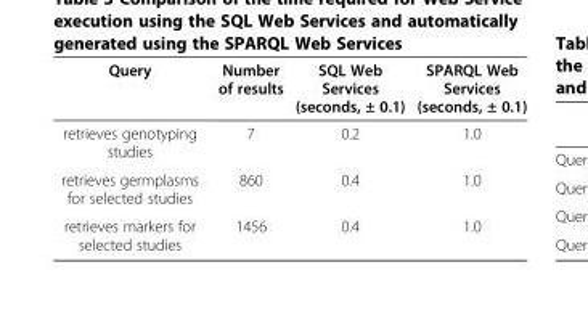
<table><thead><tr><td>Query</td><td>Number of results</td><td>SQL Web Services (seconds, ± 0.1)</td><td>SPARQL Web Services (seconds, ± 0.1)</td></tr></thead><tbody><tr><td>retrieves genotyping studies</td><td>7</td><td>0.2</td><td>1.0</td></tr><tr><td>retrieves germplasms for selected studies</td><td>860</td><td>0.4</td><td>1.0</td></tr><tr><td>retrieves markers for selected studies</td><td>1456</td><td>0.4</td><td>1.0</td></tr></tbody></table>